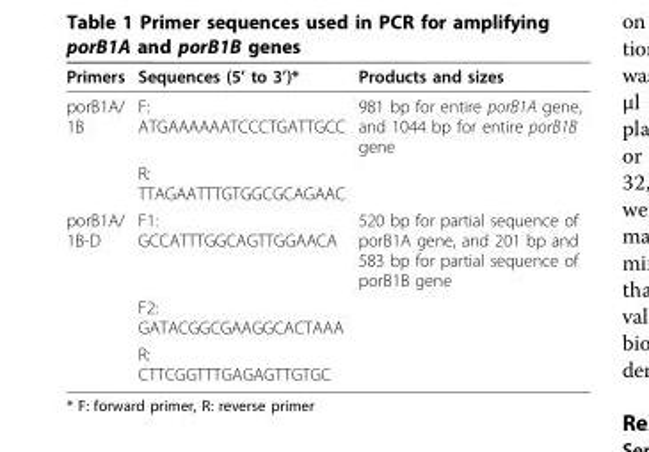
<table><thead><tr><td>Primers</td><td>Sequences (5’ to 3’)*</td><td>Products and sizes</td></tr></thead><tbody><tr><td rowspan="2">porB1A/ 1B</td><td>F: ATGAAAAAATCCCTGATTGCC</td><td>981 bp for entire porB1A gene, and 1044 bp for entire porB1B gene</td></tr><tr><td>R: TTAGAATTTGTGGCGCAGAAC</td><td></td></tr><tr><td rowspan="3">porB1A/ 1B-D</td><td>F1: GCCATTTGGCAGTTGGAACA</td><td>520 bp for partial sequence of porB1A gene, and 201 bp and 583 bp for partial sequence of porB1B gene</td></tr><tr><td>F2: GATACGGCGAAGGCACTAAA</td><td></td></tr><tr><td>R: CTTCGGTTTGAGAGTTGTGC</td><td></td></tr></tbody></table>